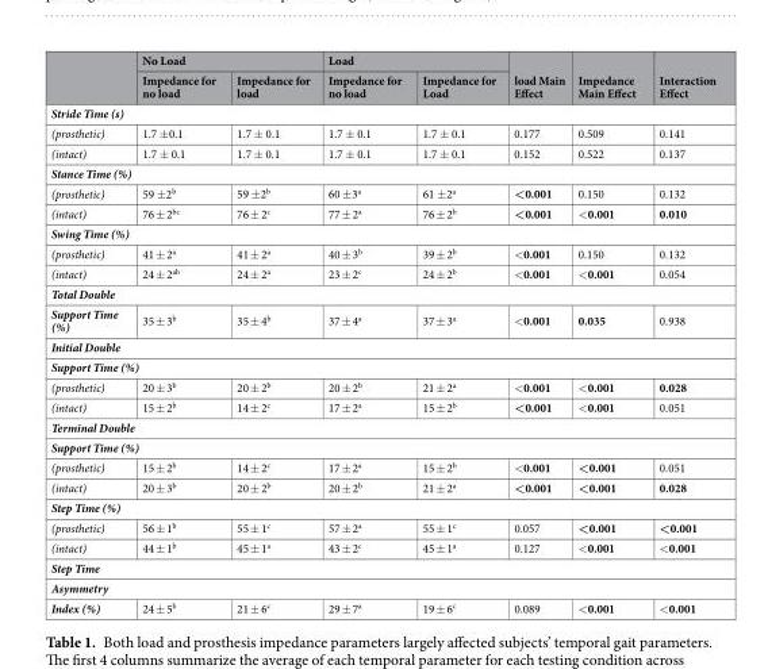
<table><thead><tr><td rowspan="2"></td><td colspan="2">No Load</td><td colspan="2">Load</td><td rowspan="2">load Main Effect</td><td rowspan="2">Impedance Main Effect</td><td rowspan="2">Interaction Effect</td></tr><tr><td>Impedance for no load</td><td>Impedance for load</td><td>Impedance for no load</td><td>Impedance for Load</td></tr></thead><tbody><tr><td colspan="8">Stride Time (s)</td></tr><tr><td>(prosthetic)</td><td>1.7 ±0.1</td><td>1.7 ± 0.1</td><td>1.7 ± 0.1</td><td>1.7 ± 0.1</td><td>0.177</td><td>0.509</td><td>0.141</td></tr><tr><td>(intact)</td><td>1.7 ± 0.1</td><td>1.7 ± 0.1</td><td>1.7 ± 0.1</td><td>1.7 ± 0.1</td><td>0.152</td><td>0.522</td><td>0.137</td></tr><tr><td colspan="8">Stance Time (%)</td></tr><tr><td>(prosthetic)</td><td>59 ±2<sup>b</sup></td><td>59 ±2<sup>b</sup></td><td>60 ±3<sup>a</sup></td><td>61 ±2<sup>a</sup></td><td>&lt;0.001</td><td>0.150</td><td>0.132</td></tr><tr><td>(intact)</td><td>76 ± 2<sup>bc</sup></td><td>76 ± 2<sup>c</sup></td><td>77 ± 2<sup>a</sup></td><td>76 ± 2<sup>b</sup></td><td>&lt;0.001</td><td>&lt;0.001</td><td>0.010</td></tr><tr><td colspan="8">Swing Time (%)</td></tr><tr><td>(prosthetic)</td><td>41 ± 2<sup>a</sup></td><td>41 ± 2<sup>a</sup></td><td>40 ± 3<sup>b</sup></td><td>39 ± 2<sup>b</sup></td><td>&lt;0.001</td><td>0.150</td><td>0.132</td></tr><tr><td>(intact)</td><td>24 ± 2<sup>ab</sup></td><td>24 ± 2<sup>a</sup></td><td>23 ± 2<sup>c</sup></td><td>24 ± 2<sup>b</sup></td><td>&lt;0.001</td><td>&lt;0.001</td><td>0.054</td></tr><tr><td colspan="8">Total Double</td></tr><tr><td>Support Time (%)</td><td>35 ± 3<sup>b</sup></td><td>35 ± 4<sup>b</sup></td><td>37 ± 4<sup>a</sup></td><td>37 ± 3<sup>a</sup></td><td>&lt;0.001</td><td>0.035</td><td>0.938</td></tr><tr><td colspan="8">Initial Double</td></tr><tr><td colspan="8">Support Time (%)</td></tr><tr><td>(prosthetic)</td><td>20 ± 3<sup>b</sup></td><td>20 ± 2<sup>b</sup></td><td>20 ± 2<sup>b</sup></td><td>21 ± 2<sup>a</sup></td><td>&lt;0.001</td><td>&lt;0.001</td><td>0.028</td></tr><tr><td>(intact)</td><td>15 ± 2<sup>b</sup></td><td>14 ± 2<sup>c</sup></td><td>17 ± 2<sup>a</sup></td><td>15 ± 2<sup>b</sup></td><td>&lt;0.001</td><td>&lt;0.001</td><td>0.051</td></tr><tr><td colspan="8">Terminal Double</td></tr><tr><td colspan="8">Support Time (%)</td></tr><tr><td>(prosthetic)</td><td>15 ± 2<sup>b</sup></td><td>14 ± 2<sup>c</sup></td><td>17 ± 2<sup>a</sup></td><td>15 ± 2<sup>b</sup></td><td>&lt;0.001</td><td>&lt;0.001</td><td>0.051</td></tr><tr><td>(intact)</td><td>20 ± 3<sup>b</sup></td><td>20 ± 2<sup>b</sup></td><td>20 ± 2<sup>b</sup></td><td>21 ± 2<sup>a</sup></td><td>&lt;0.001</td><td>&lt;0.001</td><td>0.028</td></tr><tr><td colspan="8">Step Time (%)</td></tr><tr><td>(prosthetic)</td><td>56 ± 1<sup>b</sup></td><td>55 ± 1<sup>c</sup></td><td>57 ± 2<sup>a</sup></td><td>55 ± 1<sup>c</sup></td><td>0.057</td><td>&lt;0.001</td><td>&lt;0.001</td></tr><tr><td>(intact)</td><td>44 ± 1<sup>b</sup></td><td>45 ± 1<sup>a</sup></td><td>43 ± 2<sup>c</sup></td><td>45 ± 1<sup>a</sup></td><td>0.127</td><td>&lt;0.001</td><td>&lt;0.001</td></tr><tr><td colspan="8">Step Time</td></tr><tr><td colspan="8">Asymmetry</td></tr><tr><td>Index (%)</td><td>24 ± 5<sup>b</sup></td><td>21 ± 6<sup>c</sup></td><td>29 ± 7<sup>a</sup></td><td>19 ± 6<sup>c</sup></td><td>0.089</td><td>&lt;0.001</td><td>&lt;0.001</td></tr></tbody></table>